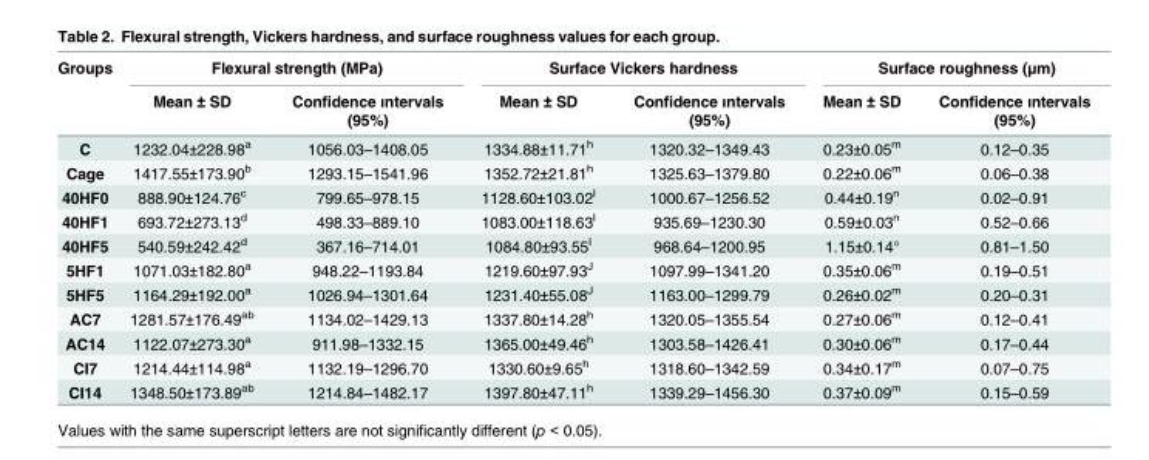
<table><thead><tr><td rowspan="2">Groups</td><td colspan="2">Flexural strength (MPa)</td><td colspan="2">Surface Vickers hardness</td><td colspan="2">Surface roughness (μm)</td></tr><tr><td>Mean ± SD</td><td>Confidence ıntervals (95%)</td><td>Mean ± SD</td><td>Confidence ıntervals (95%)</td><td>Mean ± SD</td><td>Confidence ıntervals (95%)</td></tr></thead><tbody><tr><td>C</td><td>1232.04±228.98<sup>a</sup></td><td>1056.03–1408.05</td><td>1334.88±11.71<sup>h</sup></td><td>1320.32–1349.43</td><td>0.23±0.05<sup>m</sup></td><td>0.12–0.35</td></tr><tr><td>Cage</td><td>1417.55±173.90<sup>b</sup></td><td>1293.15–1541.96</td><td>1352.72±21.81<sup>h</sup></td><td>1325.63–1379.80</td><td>0.22±0.06<sup>m</sup></td><td>0.06–0.38</td></tr><tr><td>40HF0</td><td>888.90±124.76<sup>c</sup></td><td>799.65–978.15</td><td>1128.60±103.02<sup>I</sup></td><td>1000.67–1256.52</td><td>0.44±0.19<sup>n</sup></td><td>0.02–0.91</td></tr><tr><td>40HF1</td><td>693.72±273.13<sup>d</sup></td><td>498.33–889.10</td><td>1083.00±118.63<sup>I</sup></td><td>935.69–1230.30</td><td>0.59±0.03<sup>n</sup></td><td>0.52–0.66</td></tr><tr><td>40HF5</td><td>540.59±242.42<sup>d</sup></td><td>367.16–714.01</td><td>1084.80±93.55<sup>I</sup></td><td>968.64–1200.95</td><td>1.15±0.14°</td><td>0.81–1.50</td></tr><tr><td>5HF1</td><td>1071.03±182.80<sup>a</sup></td><td>948.22–1193.84</td><td>1219.60±97.93<sup>J</sup></td><td>1097.99–1341.20</td><td>0.35±0.06<sup>m</sup></td><td>0.19–0.51</td></tr><tr><td>5HF5</td><td>1164.29±192.00<sup>a</sup></td><td>1026.94–1301.64</td><td>1231.40±55.08<sup>J</sup></td><td>1163.00–1299.79</td><td>0.26±0.02<sup>m</sup></td><td>0.20–0.31</td></tr><tr><td>AC7</td><td>1281.57±176.49<sup>ab</sup></td><td>1134.02–1429.13</td><td>1337.80±14.28<sup>h</sup></td><td>1320.05–1355.54</td><td>0.27±0.06<sup>m</sup></td><td>0.12–0.41</td></tr><tr><td>AC14</td><td>1122.07±273.30<sup>a</sup></td><td>911.98–1332.15</td><td>1365.00±49.46<sup>h</sup></td><td>1303.58–1426.41</td><td>0.30±0.06<sup>m</sup></td><td>0.17–0.44</td></tr><tr><td>CI7</td><td>1214.44±114.98<sup>a</sup></td><td>1132.19–1296.70</td><td>1330.60±9.65<sup>h</sup></td><td>1318.60–1342.59</td><td>0.34±0.17<sup>m</sup></td><td>0.07–0.75</td></tr><tr><td>CI14</td><td>1348.50±173.89<sup>ab</sup></td><td>1214.84–1482.17</td><td>1397.80±47.11<sup>h</sup></td><td>1339.29–1456.30</td><td>0.37±0.09<sup>m</sup></td><td>0.15–0.59</td></tr></tbody></table>